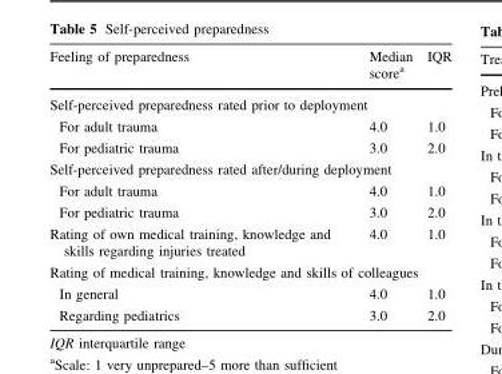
<table><thead><tr><td>Feeling of preparedness</td><td>Median score<sup>a</sup></td><td>IQR</td></tr></thead><tbody><tr><td colspan="3">Self-perceived preparedness rated prior to deployment</td></tr><tr><td>For adult trauma</td><td>4.0</td><td>1.0</td></tr><tr><td>For pediatric trauma</td><td>3.0</td><td>2.0</td></tr><tr><td colspan="3">Self-perceived preparedness rated after/during deployment</td></tr><tr><td>For adult trauma</td><td>4.0</td><td>1.0</td></tr><tr><td>For pediatric trauma</td><td>3.0</td><td>2.0</td></tr><tr><td>Rating of own medical training, knowledge and skills regarding injuries treated</td><td>4.0</td><td>1.0</td></tr><tr><td colspan="3">Rating of medical training, knowledge and skills of colleagues</td></tr><tr><td>In general</td><td>4.0</td><td>1.0</td></tr><tr><td>Regarding pediatrics</td><td>3.0</td><td>2.0</td></tr></tbody></table>